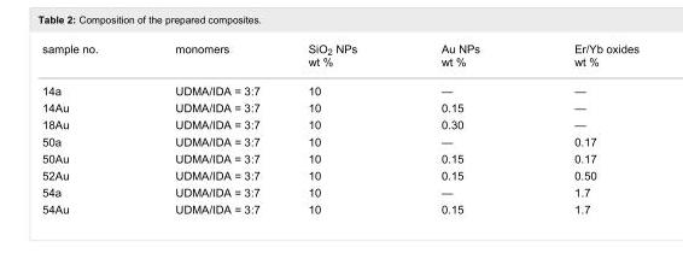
<table><tbody><tr><td>sample no.</td><td>monomers</td><td>SiO<sub>2</sub> NPs wt %</td><td>Au NPs wt %</td><td>Er/Yb oxides wt %</td></tr><tr><td>14a</td><td>UDMA/IDA = 3:7</td><td>10</td><td>—</td><td>—</td></tr><tr><td>14Au</td><td>UDMA/IDA = 3:7</td><td>10</td><td>0.15</td><td>—</td></tr><tr><td>18Au</td><td>UDMA/IDA = 3:7</td><td>10</td><td>0.30</td><td>—</td></tr><tr><td>50a</td><td>UDMA/IDA = 3:7</td><td>10</td><td>—</td><td>0.17</td></tr><tr><td>50Au</td><td>UDMA/IDA = 3:7</td><td>10</td><td>0.15</td><td>0.17</td></tr><tr><td>52Au</td><td>UDMA/IDA = 3:7</td><td>10</td><td>0.15</td><td>0.50</td></tr><tr><td>54а</td><td>UDMA/IDA = 3:7</td><td>10</td><td>—</td><td>1.7</td></tr><tr><td>54Au</td><td>UDMA/IDA = 3:7</td><td>10</td><td>0.15</td><td>1.7</td></tr></tbody></table>